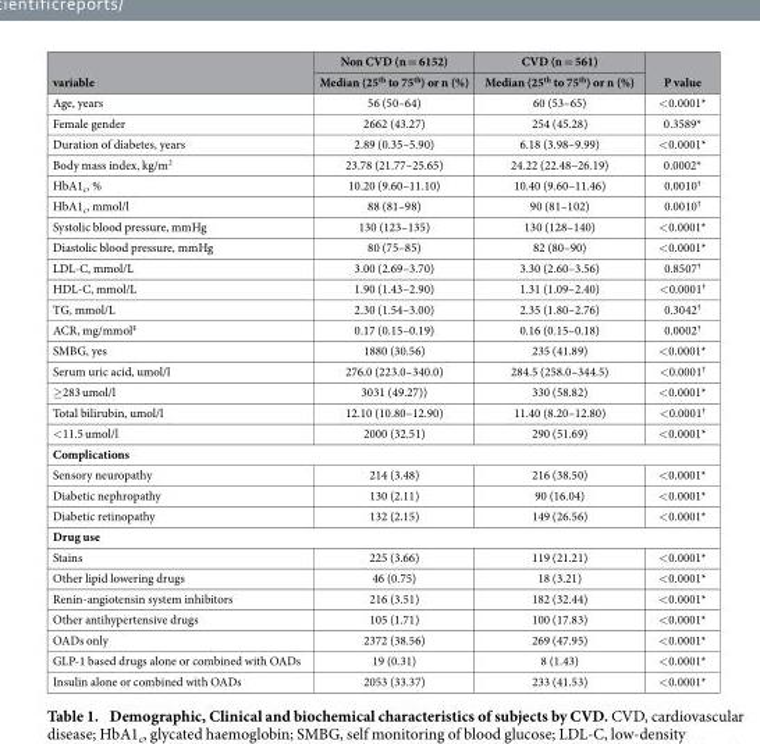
<table><thead><tr><td rowspan="2">variable</td><td rowspan="2">Non CVD (n = 6152) Median (25<sup>th</sup> to 75<sup>th</sup>) or n (%)</td><td rowspan="2">CVD (n = 561) Median (25<sup>th</sup> to 75<sup>th</sup>) or n (%)</td><td rowspan="2">P value</td></tr><tr></tr></thead><tbody><tr><td>Age, years</td><td>56 (50–64)</td><td>60 (53–65)</td><td>&lt; 0.0001*</td></tr><tr><td>Female gender</td><td>2662 (43.27)</td><td>254 (45.28)</td><td>0.3589*</td></tr><tr><td>Duration of diabetes, years</td><td>2.89 (0.35–5.90)</td><td>6.18 (3.98–9.99)</td><td>&lt; 0.0001*</td></tr><tr><td>Body mass index, kg/m<sup>2</sup></td><td>23.78 (21.77–25.65)</td><td>24.22 (22.48–26.19)</td><td>0.0002*</td></tr><tr><td>HbA1<sub>c</sub>, %</td><td>10.20 (9.60–11.10)</td><td>10.40 (9.60–11.46)</td><td>0.0010†</td></tr><tr><td>HbA1<sub>c</sub>, mmol/l</td><td>88 (81–98)</td><td>90 (81–102)</td><td>0.0010†</td></tr><tr><td>Systolic blood pressure, mmHg</td><td>130 (123–135)</td><td>130 (128–140)</td><td>&lt; 0.0001*</td></tr><tr><td>Diastolic blood pressure, mmHg</td><td>80 (75–85)</td><td>82 (80–90)</td><td>&lt; 0.0001*</td></tr><tr><td>LDL-C, mmol/L</td><td>3.00 (2.69–3.70)</td><td>3.30 (2.60–3.56)</td><td>0.8507†</td></tr><tr><td>HDL-C, mmol/L</td><td>1.90 (1.43–2.90)</td><td>1.31 (1.09–2.40)</td><td>&lt; 0.0001†</td></tr><tr><td>TG, mmol/L</td><td>2.30 (1.54–3.00)</td><td>2.35 (1.80–2.76)</td><td>0.3042†</td></tr><tr><td>ACR, mg/mmol‡</td><td>0.17 (0.15–0.19)</td><td>0.16 (0.15–0.18)</td><td>0.0002†</td></tr><tr><td>SMBG, yes</td><td>1880 (30.56)</td><td>235 (41.89)</td><td>&lt; 0.0001*</td></tr><tr><td>Serum uric acid, umol/l</td><td>276.0 (223.0–340.0)</td><td>284.5 (258.0–344.5)</td><td>&lt; 0.0001†</td></tr><tr><td>≥ 283 umol/l</td><td>3031 (49.27))</td><td>330 (58.82)</td><td>&lt; 0.0001*</td></tr><tr><td>Total bilirubin, umol/l</td><td>12.10 (10.80–12.90)</td><td>11.40 (8.20–12.80)</td><td>&lt; 0.0001†</td></tr><tr><td>&lt; 11.5 umol/l</td><td>2000 (32.51)</td><td>290 (51.69)</td><td>&lt; 0.0001*</td></tr><tr><td colspan="4">Complications</td></tr><tr><td>Sensory neuropathy</td><td>214 (3.48)</td><td>216 (38.50)</td><td>&lt; 0.0001*</td></tr><tr><td>Diabetic nephropathy</td><td>130 (2.11)</td><td>90 (16.04)</td><td>&lt; 0.0001*</td></tr><tr><td>Diabetic retinopathy</td><td>132 (2.15)</td><td>149 (26.56)</td><td>&lt; 0.0001*</td></tr><tr><td colspan="4">Drug use</td></tr><tr><td>Stains</td><td>225 (3.66)</td><td>119 (21.21)</td><td>&lt; 0.0001*</td></tr><tr><td>Other lipid lowering drugs</td><td>46 (0.75)</td><td>18 (3.21)</td><td>&lt; 0.0001*</td></tr><tr><td>Renin-angiotensin system inhibitors</td><td>216 (3.51)</td><td>182 (32.44)</td><td>&lt; 0.0001*</td></tr><tr><td>Other antihypertensive drugs</td><td>105 (1.71)</td><td>100 (17.83)</td><td>&lt; 0.0001*</td></tr><tr><td>OADs only</td><td>2372 (38.56)</td><td>269 (47.95)</td><td>&lt; 0.0001*</td></tr><tr><td>GLP-1 based drugs alone or combined with OADs</td><td>19 (0.31)</td><td>8 (1.43)</td><td>&lt; 0.0001*</td></tr><tr><td>Insulin alone or combined with OADs</td><td>2053 (33.37)</td><td>233 (41.53)</td><td>&lt; 0.0001*</td></tr></tbody></table>